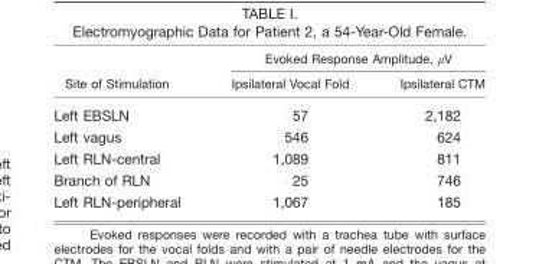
<table><thead><tr><td rowspan="2">Site of Stimulation</td><td colspan="2">Evoked Response Amplitude, μV</td></tr><tr><td>Ipsilateral Vocal Fold</td><td>Ipsilateral CTM</td></tr></thead><tbody><tr><td>Left EBSLN</td><td>57</td><td>2,182</td></tr><tr><td>Left vagus</td><td>546</td><td>624</td></tr><tr><td>Left RLN-central</td><td>1,089</td><td>811</td></tr><tr><td>Branch of RLN</td><td>25</td><td>746</td></tr><tr><td>Left RLN-peripheral</td><td>1,067</td><td>185</td></tr></tbody></table>